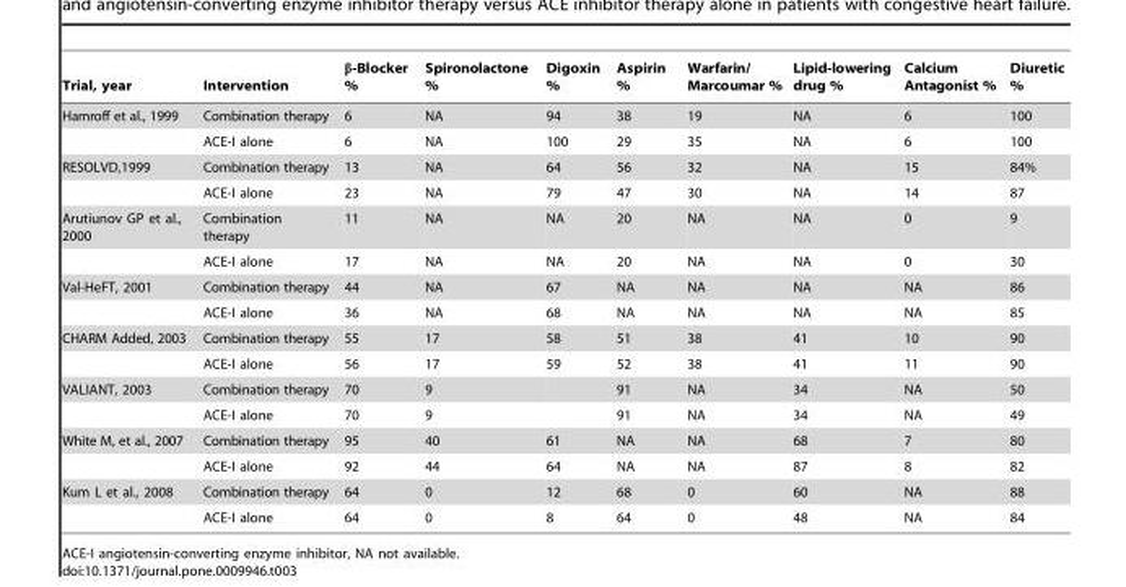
<table><thead><tr><td>Trial, year</td><td>Intervention</td><td>β-Blocker %</td><td>Spironolactone %</td><td>Digoxin %</td><td>Aspirin %</td><td>Warfarin/ Marcoumar %</td><td>Lipid-lowering drug %</td><td>Calcium Antagonist %</td><td>Diuretic %</td></tr></thead><tbody><tr><td rowspan="2">Hamroff et al., 1999</td><td>Combination therapy</td><td>6</td><td>NA</td><td>94</td><td>38</td><td>19</td><td>NA</td><td>6</td><td>100</td></tr><tr><td>ACE-I alone</td><td>6</td><td>NA</td><td>100</td><td>29</td><td>35</td><td>NA</td><td>6</td><td>100</td></tr><tr><td rowspan="2">RESOLVD,1999</td><td>Combination therapy</td><td>13</td><td>NA</td><td>64</td><td>56</td><td>32</td><td>NA</td><td>15</td><td>84%</td></tr><tr><td>ACE-I alone</td><td>23</td><td>NA</td><td>79</td><td>47</td><td>30</td><td>NA</td><td>14</td><td>87</td></tr><tr><td rowspan="2">Arutiunov GP et al., 2000</td><td>Combination therapy</td><td>11</td><td>NA</td><td>NA</td><td>20</td><td>NA</td><td>NA</td><td>0</td><td>9</td></tr><tr><td>ACE-I alone</td><td>17</td><td>NA</td><td>NA</td><td>20</td><td>NA</td><td>NA</td><td>0</td><td>30</td></tr><tr><td rowspan="2">Val-HeFT, 2001</td><td>Combination therapy</td><td>44</td><td>NA</td><td>67</td><td>NA</td><td>NA</td><td>NA</td><td>NA</td><td>86</td></tr><tr><td>ACE-I alone</td><td>36</td><td>NA</td><td>68</td><td>NA</td><td>NA</td><td>NA</td><td>NA</td><td>85</td></tr><tr><td rowspan="2">CHARM Added, 2003</td><td>Combination therapy</td><td>55</td><td>17</td><td>58</td><td>51</td><td>38</td><td>41</td><td>10</td><td>90</td></tr><tr><td>ACE-I alone</td><td>56</td><td>17</td><td>59</td><td>52</td><td>38</td><td>41</td><td>11</td><td>90</td></tr><tr><td rowspan="2">VALIANT, 2003</td><td>Combination therapy</td><td>70</td><td>9</td><td></td><td>91</td><td>NA</td><td>34</td><td>NA</td><td>50</td></tr><tr><td>ACE-I alone</td><td>70</td><td>9</td><td></td><td>91</td><td>NA</td><td>34</td><td>NA</td><td>49</td></tr><tr><td rowspan="2">White M, et al., 2007</td><td>Combination therapy</td><td>95</td><td>40</td><td>61</td><td>NA</td><td>NA</td><td>68</td><td>7</td><td>80</td></tr><tr><td>ACE-I alone</td><td>92</td><td>44</td><td>64</td><td>NA</td><td>NA</td><td>87</td><td>8</td><td>82</td></tr><tr><td rowspan="2">Kum L et al., 2008</td><td>Combination therapy</td><td>64</td><td>0</td><td>12</td><td>68</td><td>0</td><td>60</td><td>NA</td><td>88</td></tr><tr><td>ACE-I alone</td><td>64</td><td>0</td><td>8</td><td>64</td><td>0</td><td>48</td><td>NA</td><td>84</td></tr></tbody></table>